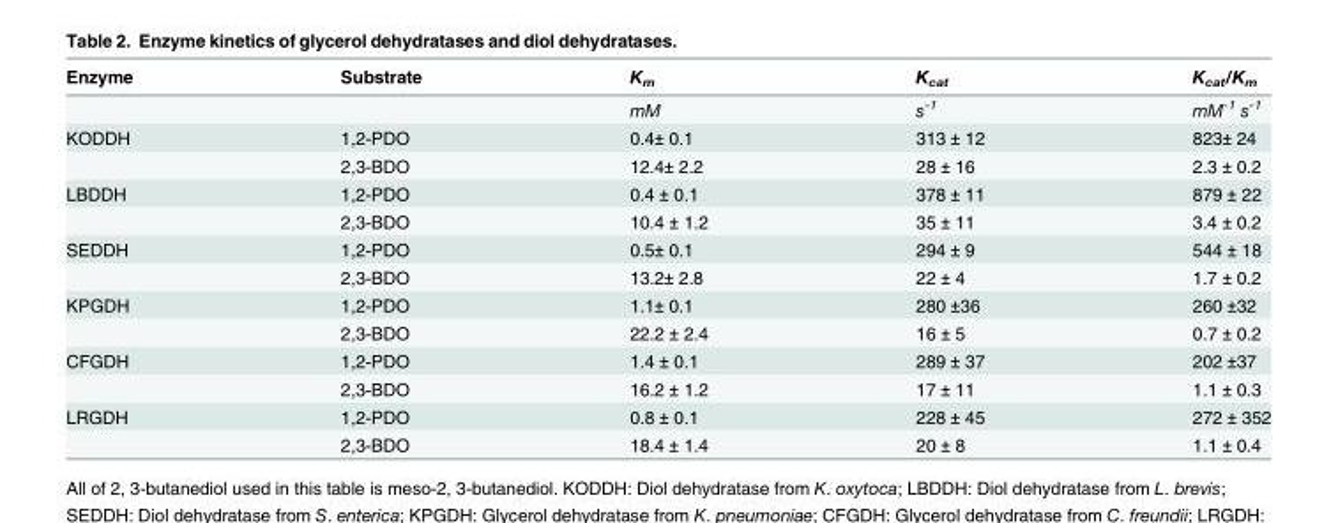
<table><thead><tr><td>Enzyme</td><td>Substrate</td><td>K<sub>m</sub></td><td>K<sub>cat</sub></td><td>K<sub>cat</sub>/K<sub>m</sub></td></tr></thead><tbody><tr><td></td><td></td><td>mM</td><td>s<sup>-1</sup></td><td>mM<sup>-1</sup> s<sup>-1</sup></td></tr><tr><td rowspan="2">KODDH</td><td>1,2-PDO</td><td>0.4± 0.1</td><td>313 ± 12</td><td>823± 24</td></tr><tr><td>2,3-BDO</td><td>12.4± 2.2</td><td>28 ± 16</td><td>2.3 ± 0.2</td></tr><tr><td rowspan="2">LBDDH</td><td>1,2-PDO</td><td>0.4 ± 0.1</td><td>378 ± 11</td><td>879 ± 22</td></tr><tr><td>2,3-BDO</td><td>10.4 ± 1.2</td><td>35 ± 11</td><td>3.4 ± 0.2</td></tr><tr><td rowspan="2">SEDDH</td><td>1,2-PDO</td><td>0.5± 0.1</td><td>294 ± 9</td><td>544 ± 18</td></tr><tr><td>2,3-BDO</td><td>13.2± 2.8</td><td>22 ± 4</td><td>1.7 ± 0.2</td></tr><tr><td rowspan="2">KPGDH</td><td>1,2-PDO</td><td>1.1± 0.1</td><td>280 ±36</td><td>260 ±32</td></tr><tr><td>2,3-BDO</td><td>22.2 ± 2.4</td><td>16 ± 5</td><td>0.7 ± 0.2</td></tr><tr><td rowspan="2">CFGDH</td><td>1,2-PDO</td><td>1.4 ± 0.1</td><td>289 ± 37</td><td>202 ±37</td></tr><tr><td>2,3-BDO</td><td>16.2 ± 1.2</td><td>17 ± 11</td><td>1.1 ± 0.3</td></tr><tr><td rowspan="2">LRGDH</td><td>1,2-PDO</td><td>0.8 ± 0.1</td><td>228 ± 45</td><td>272 ± 352</td></tr><tr><td>2,3-BDO</td><td>18.4 ± 1.4</td><td>20 ± 8</td><td>1.1 ± 0.4</td></tr></tbody></table>